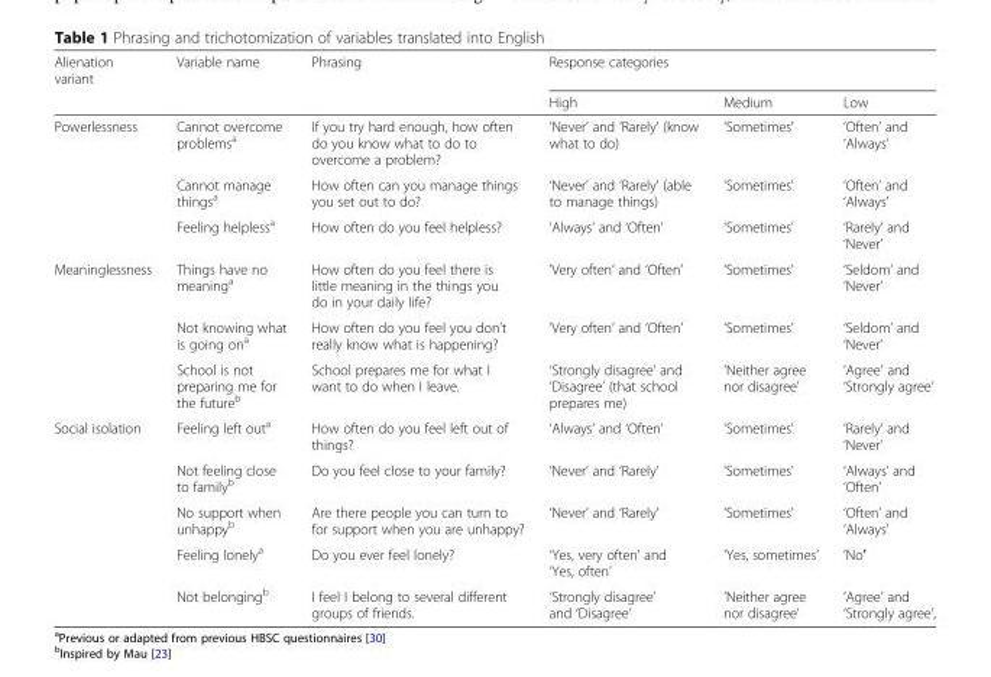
<table><thead><tr><td rowspan="2">Alienation variant</td><td rowspan="2">Variable name</td><td rowspan="2">Phrasing</td><td colspan="3">Response categories</td></tr><tr><td>High</td><td>Medium</td><td>Low</td></tr></thead><tbody><tr><td rowspan="3">Powerlessness</td><td>Cannot overcome problems<sup>a</sup></td><td>If you try hard enough, how often do you know what to do to overcome a problem?</td><td>‘Never’ and ‘Rarely’ (know what to do)</td><td>‘Sometimes’</td><td>‘Often’ and ‘Always’</td></tr><tr><td>Cannot manage things<sup>a</sup></td><td>How often can you manage things you set out to do?</td><td>‘Never’ and ‘Rarely’ (able to manage things)</td><td>‘Sometimes’</td><td>‘Often’ and ‘Always’</td></tr><tr><td>Feeling helpless<sup>a</sup></td><td>How often do you feel helpless?</td><td>‘Always’ and ‘Often’</td><td>‘Sometimes’</td><td>‘Rarely’ and ‘Never’</td></tr><tr><td rowspan="3">Meaninglessness</td><td>Things have no meaning<sup>a</sup></td><td>How often do you feel there is little meaning in the things you do in your daily life?</td><td>’Very often’ and ‘Often’</td><td>‘Sometimes’</td><td>‘Seldom’ and ‘Never’</td></tr><tr><td>Not knowing what is going on<sup>a</sup></td><td>How often do you feel you don’t really know what is happening?</td><td>’Very often’ and ‘Often’</td><td>‘Sometimes’</td><td>‘Seldom’ and ‘Never’</td></tr><tr><td>School is not preparing me for the future<sup>b</sup></td><td>School prepares me for what I want to do when I leave.</td><td>‘Strongly disagree’ and ‘Disagree’ (that school prepares me)</td><td>’Neither agree nor disagree’</td><td>’Agree’ and ‘Strongly agree’</td></tr><tr><td rowspan="5">Social isolation</td><td>Feeling left out<sup>a</sup></td><td>How often do you feel left out of things?</td><td>‘Always’ and ‘Often’</td><td>‘Sometimes’</td><td>‘Rarely’ and ‘Never’</td></tr><tr><td>Not feeling close to family<sup>b</sup></td><td>Do you feel close to your family?</td><td>‘Never’ and ‘Rarely’</td><td>‘Sometimes’</td><td>‘Always’ and ‘Often’</td></tr><tr><td>No support when unhappy<sup>b</sup></td><td>Are there people you can turn to for support when you are unhappy?</td><td>‘Never’ and ‘Rarely’</td><td>‘Sometimes’</td><td>‘Often’ and ‘Always’</td></tr><tr><td>Feeling lonely<sup>a</sup></td><td>Do you ever feel lonely?</td><td>‘Yes, very often’ and ‘Yes, often’</td><td>’Yes, sometimes’</td><td>’No′</td></tr><tr><td>Not belonging<sup>b</sup></td><td>I feel I belong to several different groups of friends.</td><td>‘Strongly disagree’ and ‘Disagree’</td><td>’Neither agree nor disagree’</td><td>’Agree’ and ‘Strongly agree’,</td></tr></tbody></table>